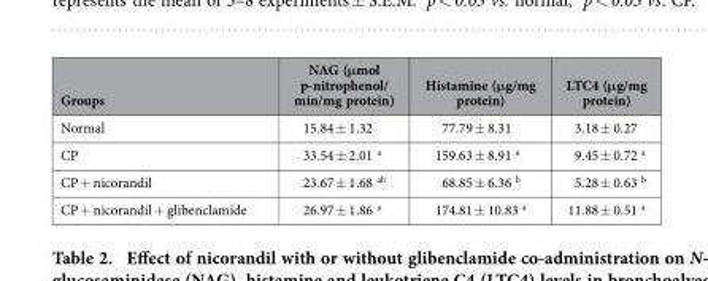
<table><thead><tr><td>Groups</td><td>NAG (μmol p-nitrophenol/ min/mg protein)</td><td>Histamine (μg/mg protein)</td><td>LTC4 (μg/mg protein)</td></tr></thead><tbody><tr><td>Normal</td><td>15.84 ± 1.32</td><td>77.79 ± 8.31</td><td>3.18 ± 0.27</td></tr><tr><td>CP</td><td>33.54 ± 2.01 a</td><td>159.63 ± 8.91 a</td><td>9.45 ± 0.72 a</td></tr><tr><td>CP + nicorandil</td><td>23.67 ± 1.68 ab</td><td>68.85 ± 6.36 b</td><td>5.28 ± 0.63 b</td></tr><tr><td>CP + nicorandil + glibenclamide</td><td>26.97 ± 1.86 a</td><td>174.81 ± 10.83 a</td><td>11.88 ± 0.51 a</td></tr></tbody></table>